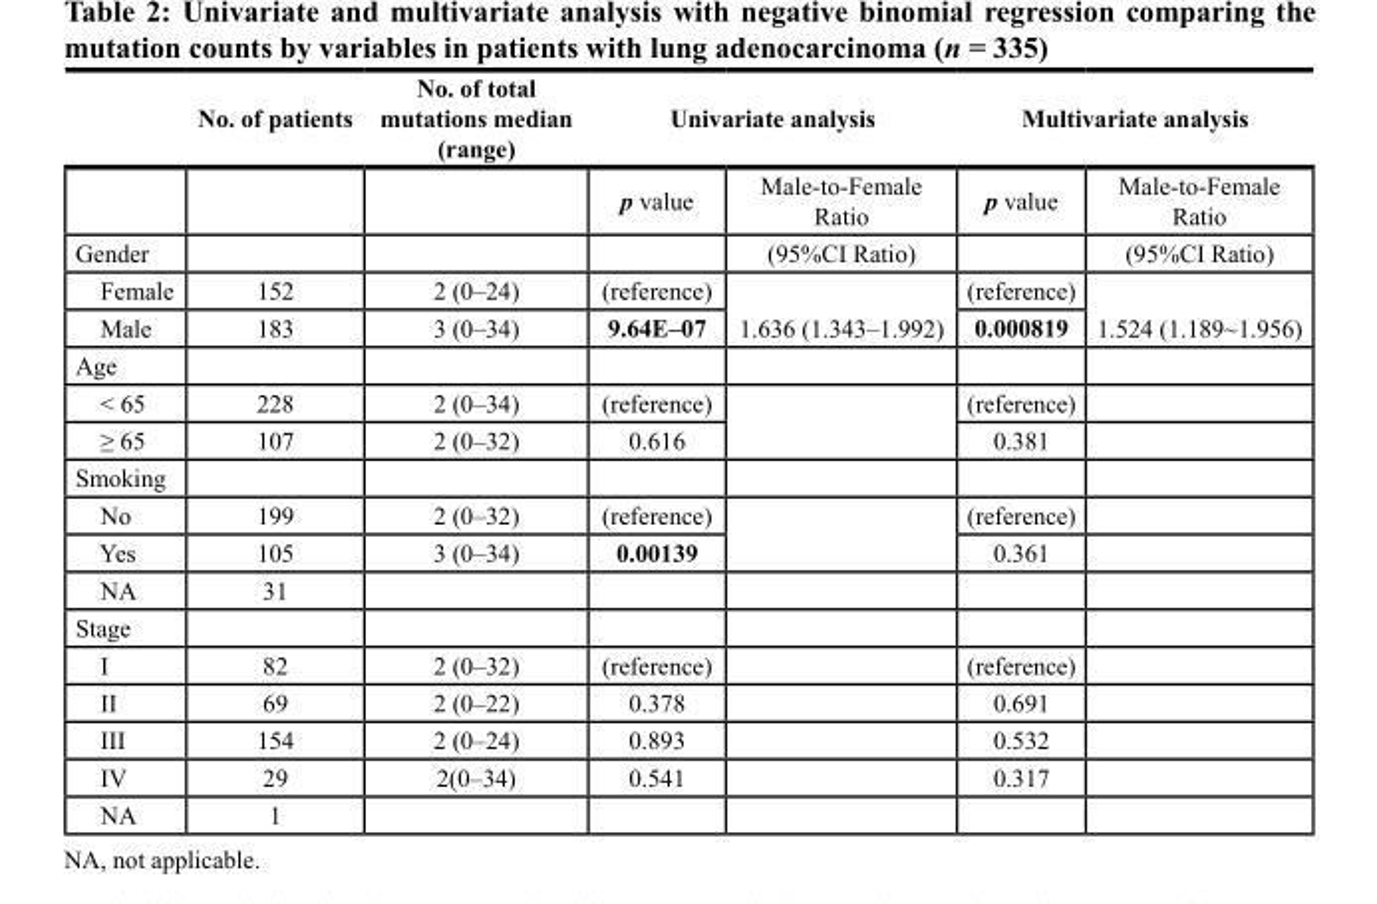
<table><thead><tr><td rowspan="2"></td><td rowspan="2">No. of patients</td><td rowspan="2">No. of total mutations median (range)</td><td colspan="2">Univariate analysis</td><td colspan="2">Multivariate analysis</td></tr><tr><td>p value</td><td>Male-to-Female Ratio</td><td>p value</td><td>Male-to-Female Ratio</td></tr></thead><tbody><tr><td>Gender</td><td></td><td></td><td></td><td>(95%CI Ratio)</td><td></td><td>(95%CI Ratio)</td></tr><tr><td>Female</td><td>152</td><td>2 (0–24)</td><td>(reference)</td><td rowspan="2">1.636 (1.343–1.992)</td><td>(reference)</td><td rowspan="2">1.524 (1.189~1.956)</td></tr><tr><td>Male</td><td>183</td><td>3 (0–34)</td><td>9.64E–07</td><td>0.000819</td></tr><tr><td colspan="7">Age</td></tr><tr><td>&lt; 65</td><td>228</td><td>2 (0–34)</td><td>(reference)</td><td rowspan="2"></td><td>(reference)</td><td></td></tr><tr><td>≥ 65</td><td>107</td><td>2 (0–32)</td><td>0.616</td><td>0.381</td><td></td></tr><tr><td colspan="7">Smoking</td></tr><tr><td>No</td><td>199</td><td>2 (0–32)</td><td>(reference)</td><td rowspan="2"></td><td>(reference)</td><td></td></tr><tr><td>Yes</td><td>105</td><td>3 (0–34)</td><td>0.00139</td><td>0.361</td><td></td></tr><tr><td>NA</td><td>31</td><td></td><td></td><td></td><td></td><td></td></tr><tr><td colspan="7">Stage</td></tr><tr><td>I</td><td>82</td><td>2 (0–32)</td><td>(reference)</td><td></td><td>(reference)</td><td></td></tr><tr><td>II</td><td>69</td><td>2 (0–22)</td><td>0.378</td><td></td><td>0.691</td><td></td></tr><tr><td>III</td><td>154</td><td>2 (0–24)</td><td>0.893</td><td></td><td>0.532</td><td></td></tr><tr><td>IV</td><td>29</td><td>2(0–34)</td><td>0.541</td><td></td><td>0.317</td><td></td></tr><tr><td>NA</td><td>1</td><td></td><td></td><td></td><td></td><td></td></tr></tbody></table>